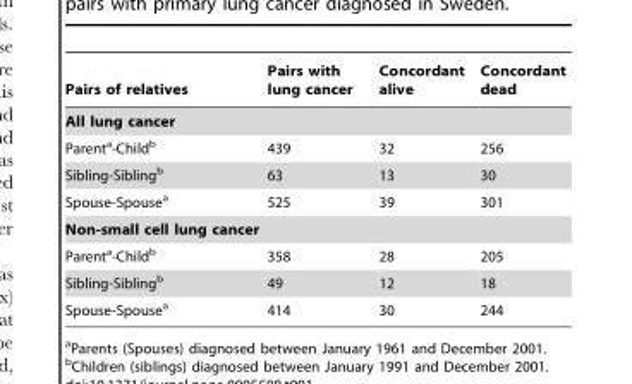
<table><thead><tr><td>Pairs of relatives</td><td>Pairs with lung cancer</td><td>Concordant alive</td><td>Concordant dead</td></tr></thead><tbody><tr><td colspan="4">All lung cancer</td></tr><tr><td>Parent<sup>a</sup>-Child<sup>b</sup></td><td>439</td><td>32</td><td>256</td></tr><tr><td>Sibling-Sibling<sup>b</sup></td><td>63</td><td>13</td><td>30</td></tr><tr><td>Spouse-Spouse<sup>a</sup></td><td>525</td><td>39</td><td>301</td></tr><tr><td colspan="4">Non-small cell lung cancer</td></tr><tr><td>Parent<sup>a</sup>-Child<sup>b</sup></td><td>358</td><td>28</td><td>205</td></tr><tr><td>Sibling-Sibling<sup>b</sup></td><td>49</td><td>12</td><td>18</td></tr><tr><td>Spouse-Spouse<sup>a</sup></td><td>414</td><td>30</td><td>244</td></tr></tbody></table>